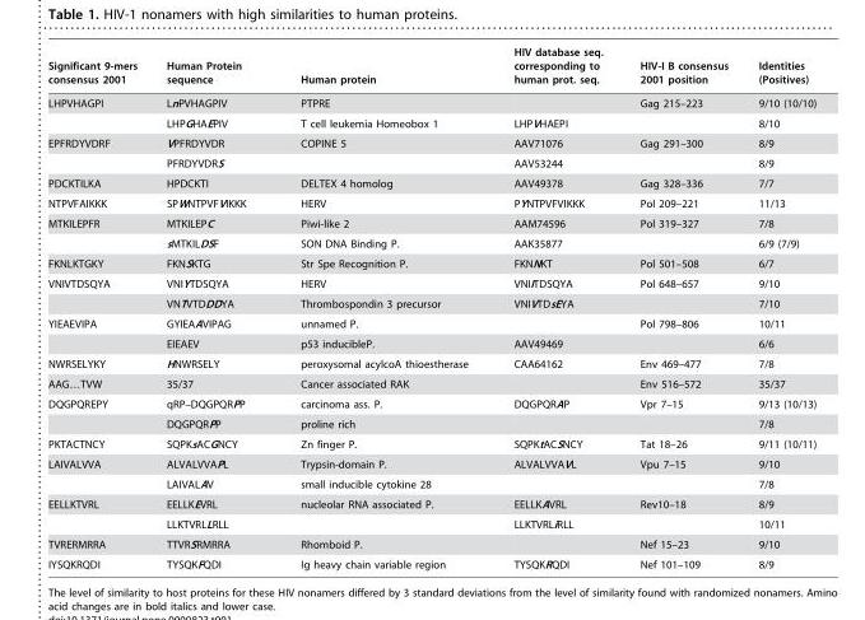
<table><thead><tr><td>Significant 9-mers consensus 2001</td><td>Human Protein sequence</td><td>Human protein</td><td>HIV database seq. corresponding to human prot. seq.</td><td>HIV-I B consensus 2001 position</td><td>Identities (Positives)</td></tr></thead><tbody><tr><td rowspan="2">LHPVHAGPI</td><td>LnPVHAGPIV</td><td>PTPRE</td><td></td><td>Gag 215–223</td><td>9/10 (10/10)</td></tr><tr><td>LHPGHAEPIV</td><td>T cell leukemia Homeobox 1</td><td>LHPVHAEPI</td><td></td><td>8/10</td></tr><tr><td rowspan="2">EPFRDYVDRF</td><td>VPFRDYVDR</td><td>COPINE 5</td><td>AAV71076</td><td>Gag 291–300</td><td>8/9</td></tr><tr><td>PFRDYVDRS</td><td></td><td>AAV53244</td><td></td><td>8/9</td></tr><tr><td>PDCKTILKA</td><td>HPDCKTI</td><td>DELTEX 4 homolog</td><td>AAV49378</td><td>Gag 328–336</td><td>7/7</td></tr><tr><td>NTPVFAIKKK</td><td>SPWNTPVFVIKKK</td><td>HERV</td><td>PYNTPVFVIKKK</td><td>Pol 209–221</td><td>11/13</td></tr><tr><td rowspan="2">MTKILEPFR</td><td>MTKILEPC</td><td>Piwi-like 2</td><td>AAM74596</td><td>Pol 319–327</td><td>7/8</td></tr><tr><td>sMTKILDSF</td><td>SON DNA Binding P.</td><td>AAK35877</td><td></td><td>6/9 (7/9)</td></tr><tr><td>FKNLKTGKY</td><td>FKNSKTG</td><td>Str Spe Recognition P.</td><td>FKNNKT</td><td>Pol 501–508</td><td>6/7</td></tr><tr><td rowspan="2">VNIVTDSQYA</td><td>VNIYTDSQYA</td><td>HERV</td><td>VNIITDSQYA</td><td>Pol 648–657</td><td>9/10</td></tr><tr><td>VNTVTDDDYA</td><td>Thrombospondin 3 precursor</td><td>VNIVTDsEYA</td><td></td><td>7/10</td></tr><tr><td rowspan="2">YIEAEVIPA</td><td>GYIEAAVIPAG</td><td>unnamed P.</td><td></td><td>Pol 798–806</td><td>10/11</td></tr><tr><td>EIEAEV</td><td>p53 inducibleP.</td><td>AAV49469</td><td></td><td>6/6</td></tr><tr><td>NWRSELYKY</td><td>HNWRSELY</td><td>peroxysomal acylcoA thioestherase</td><td>CAA64162</td><td>Env 469–477</td><td>7/8</td></tr><tr><td>AAG…TVW</td><td>35/37</td><td>Cancer associated RAK</td><td></td><td>Env 516–572</td><td>35/37</td></tr><tr><td rowspan="2">DQGPQREPY</td><td>qRP–DQGPQRPP</td><td>carcinoma ass. P.</td><td>DQGPQRAP</td><td>Vpr 7–15</td><td>9/13 (10/13)</td></tr><tr><td>DQGPQRPP</td><td>proline rich</td><td></td><td></td><td>7/8</td></tr><tr><td>PKTACTNCY</td><td>SQPKsACGNCY</td><td>Zn finger P.</td><td>SQPKtACSNCY</td><td>Tat 18–26</td><td>9/11 (10/11)</td></tr><tr><td rowspan="2">LAIVALVVA</td><td>ALVALVVAPL</td><td>Trypsin-domain P.</td><td>ALVALVVAVL</td><td>Vpu 7–15</td><td>9/10</td></tr><tr><td>LAIVALAV</td><td colspan="2">small inducible cytokine 28</td><td></td><td>7/8</td></tr><tr><td rowspan="2">EELLKTVRL</td><td>EELLKEVRL</td><td>nucleolar RNA associated P.</td><td>EELLKAVRL</td><td>Rev10–18</td><td>8/9</td></tr><tr><td>LLKTVRLLRLL</td><td></td><td>LLKTVRLiRLL</td><td></td><td>10/11</td></tr><tr><td>TVRERMRRA</td><td>TTVRSRMRRA</td><td>Rhomboid P.</td><td></td><td>Nef 15–23</td><td>9/10</td></tr><tr><td>IYSQKRQDI</td><td>TYSQKFQDI</td><td>Ig heavy chain variable region</td><td>TYSQKRQDI</td><td>Nef 101–109</td><td>8/9</td></tr></tbody></table>